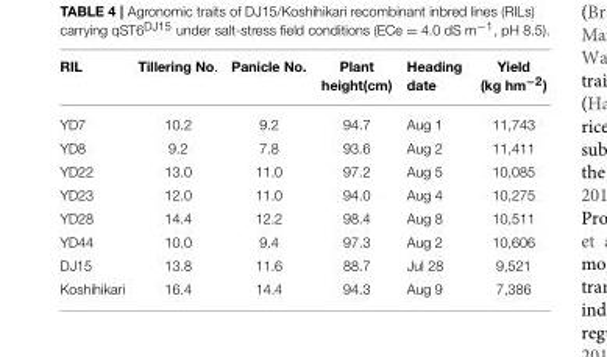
<table><thead><tr><td>RIL</td><td>Tillering No.</td><td>Panicle No.</td><td>Plant height(cm)</td><td>Heading date</td><td>Yield (kg hm<sup>−2</sup>)</td></tr></thead><tbody><tr><td>YD7</td><td>10.2</td><td>9.2</td><td>94.7</td><td>Aug 1</td><td>11,743</td></tr><tr><td>YD8</td><td>9.2</td><td>7.8</td><td>93.6</td><td>Aug 2</td><td>11,411</td></tr><tr><td>YD22</td><td>13.0</td><td>11.0</td><td>97.2</td><td>Aug 5</td><td>10,085</td></tr><tr><td>YD23</td><td>12.0</td><td>11.0</td><td>94.0</td><td>Aug 4</td><td>10,275</td></tr><tr><td>YD28</td><td>14.4</td><td>12.2</td><td>98.4</td><td>Aug 8</td><td>10,511</td></tr><tr><td>YD44</td><td>10.0</td><td>9.4</td><td>97.3</td><td>Aug 2</td><td>10,606</td></tr><tr><td>DJ15</td><td>13.8</td><td>11.6</td><td>88.7</td><td>Jul 28</td><td>9,521</td></tr><tr><td>Koshihikari</td><td>16.4</td><td>14.4</td><td>94.3</td><td>Aug 9</td><td>7,386</td></tr></tbody></table>